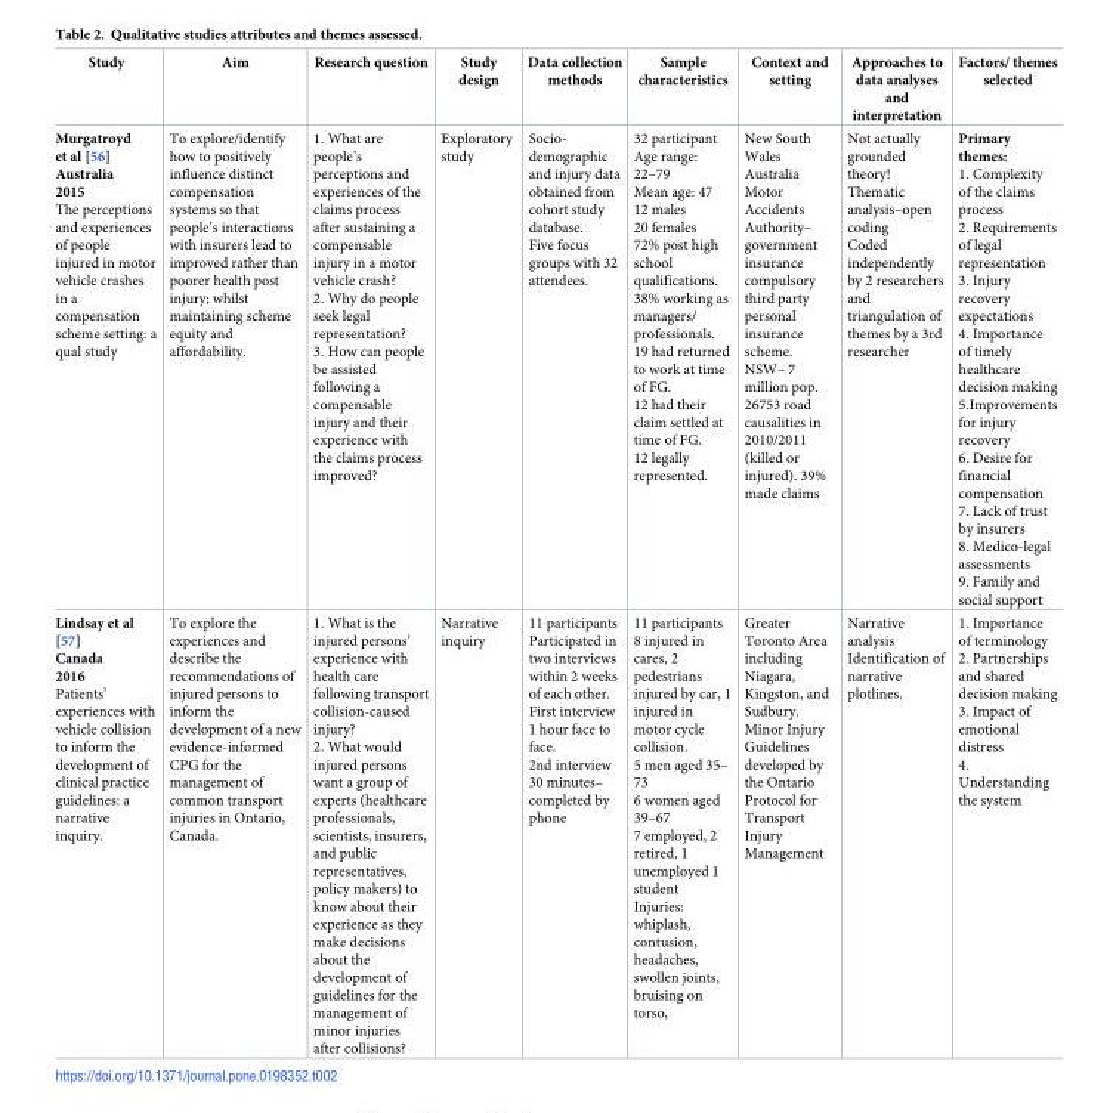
<table><thead><tr><td>Study</td><td>Aim</td><td>Research question</td><td>Study design</td><td>Data collection methods</td><td>Sample characteristics</td><td>Context and setting</td><td>Approaches to data analyses and interpretation</td><td>Factors/ themes selected</td></tr></thead><tbody><tr><td>Murgatroyd et al [56] Australia 2015 The perceptions and experiences of people injured in motor vehicle crashes in a compensation scheme setting: a qual study</td><td>To explore/identify how to positively influence distinct compensation systems so that people’s interactions with insurers lead to improved rather than poorer health post injury; whilst maintaining scheme equity and affordability.</td><td>1. What are people’s perceptions and experiences of the claims process after sustaining a compensable injury in a motor vehicle crash? 2. Why do people seek legal representation? 3. How can people be assisted following a compensable injury and their experience with the claims process improved?</td><td>Exploratory study</td><td>Socio- demographic and injury data obtained from cohort study database. Five focus groups with 32 attendees.</td><td>32 participant Age range: 22–79 Mean age: 47 12 males 20 females 72% post high school qualifications. 38% working as managers/ professionals. 19 had returned to work at time of FG. 12 had their claim settled at time of FG. 12 legally represented.</td><td>New South Wales Australia Motor Accidents Authority– government insurance compulsory third party personal insurance scheme. NSW– 7 million pop. 26753 road causalities in 2010/2011 (killed or injured). 39% made claims</td><td>Not actually grounded theory! Thematic analysis–open coding Coded independently by 2 researchers and triangulation of themes by a 3rd researcher</td><td>Primary themes: 1. Complexity of the claims process 2. Requirements of legal representation 3. Injury recovery expectations 4. Importance of timely healthcare decision making 5.Improvements for injury recovery 6. Desire for financial compensation 7. Lack of trust by insurers 8. Medico-legal assessments 9. Family and social support</td></tr><tr><td>Lindsay et al [57] Canada 2016 Patients’ experiences with vehicle collision to inform the development of clinical practice guidelines: a narrative inquiry.</td><td>To explore the experiences and describe the recommendations of injured persons to inform the development of a new evidence-informed CPG for the management of common transport injuries in Ontario, Canada.</td><td>1. What is the injured persons’ experience with health care following transport collision-caused injury? 2. What would injured persons want a group of experts (healthcare professionals, scientists, insurers, and public representatives, policy makers) to know about their experience as they make decisions about the development of guidelines for the management of minor injuries after collisions?</td><td>Narrative inquiry</td><td>11 participants Participated in two interviews within 2 weeks of each other. First interview 1 hour face to face. 2nd interview 30 minutes– completed by phone</td><td>11 participants 8 injured in cares, 2 pedestrians injured by car, 1 injured in motor cycle collision. 5 men aged 35– 73 6 women aged 39–67 7 employed, 2 retired, 1 unemployed 1 student Injuries: whiplash, contusion, headaches, swollen joints, bruising on torso,</td><td>Greater Toronto Area including Niagara, Kingston, and Sudbury. Minor Injury Guidelines developed by the Ontario Protocol for Transport Injury Management</td><td>Narrative analysis Identification of narrative plotlines.</td><td>1. Importance of terminology 2. Partnerships and shared decision making 3. Impact of emotional distress 4. Understanding the system</td></tr></tbody></table>